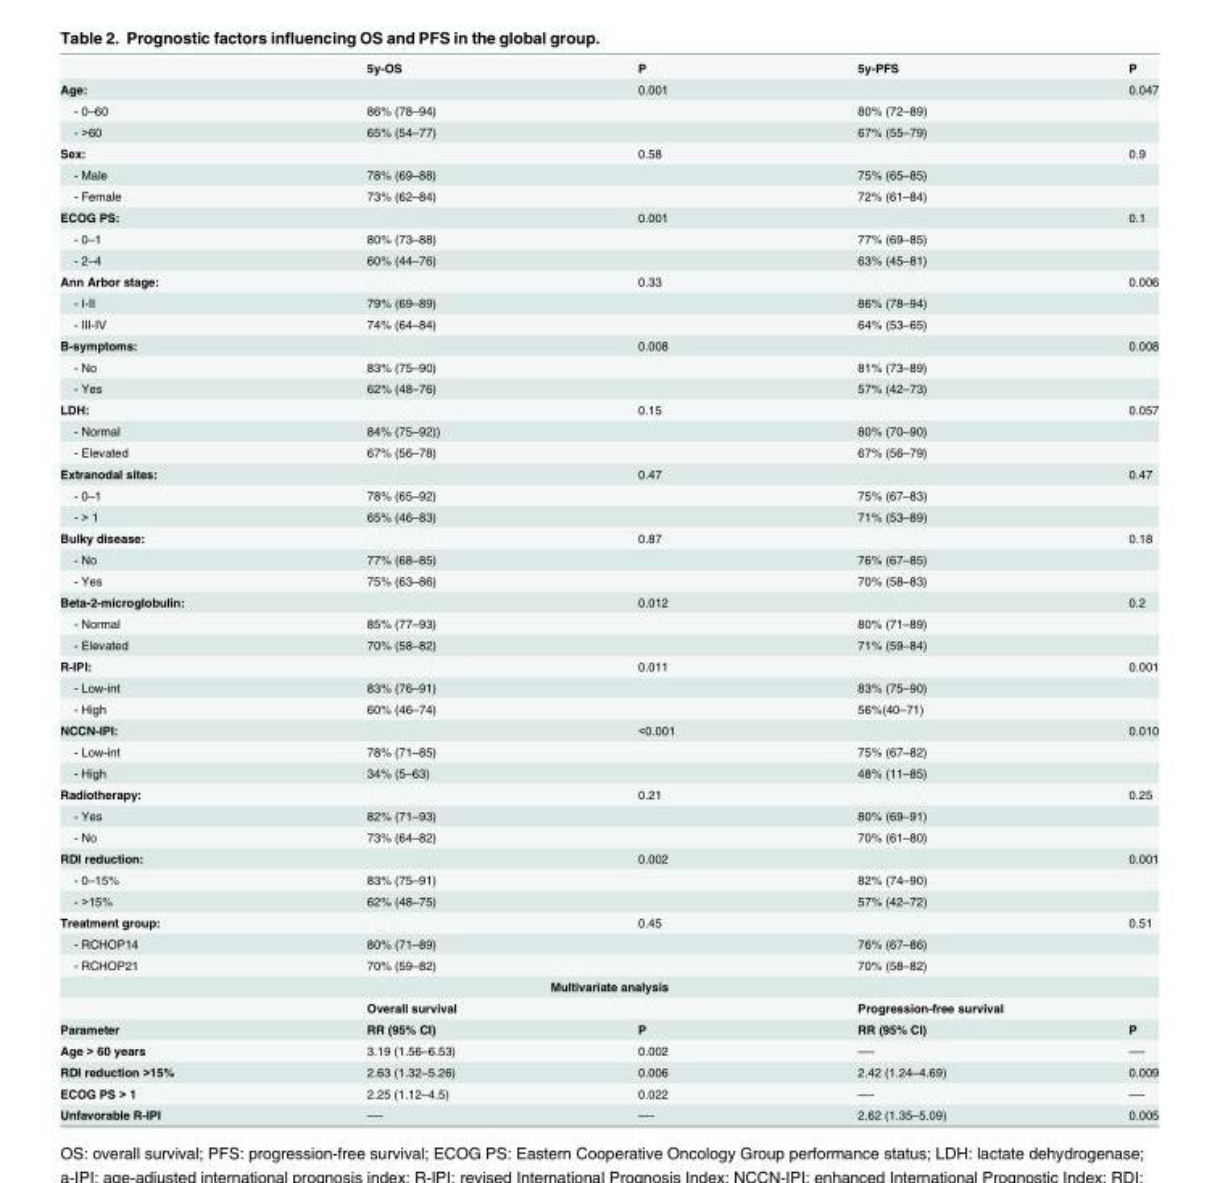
<table><thead><tr><td></td><td>5y-OS</td><td>P</td><td>5y-PFS</td><td>P</td></tr></thead><tbody><tr><td>Age:</td><td></td><td>0.001</td><td></td><td>0.047</td></tr><tr><td>- 0–60</td><td>86% (78–94)</td><td></td><td>80% (72–89)</td><td></td></tr><tr><td>- &gt;60</td><td>65% (54–77)</td><td></td><td>67% (55–79)</td><td></td></tr><tr><td>Sex:</td><td></td><td>0.58</td><td></td><td>0.9</td></tr><tr><td>- Male</td><td>78% (69–88)</td><td></td><td>75% (65–85)</td><td></td></tr><tr><td>- Female</td><td>73% (62–84)</td><td></td><td>72% (61–84)</td><td></td></tr><tr><td>ECOG PS:</td><td></td><td>0.001</td><td></td><td>0.1</td></tr><tr><td>- 0–1</td><td>80% (73–88)</td><td></td><td>77% (69–85)</td><td></td></tr><tr><td>- 2–4</td><td>60% (44–76)</td><td></td><td>63% (45–81)</td><td></td></tr><tr><td>Ann Arbor stage:</td><td></td><td>0.33</td><td></td><td>0.006</td></tr><tr><td>- I-II</td><td>79% (69–89)</td><td></td><td>86% (78–94)</td><td></td></tr><tr><td>- III-IV</td><td>74% (64–84)</td><td></td><td>64% (53–65)</td><td></td></tr><tr><td>B-symptoms:</td><td></td><td>0.008</td><td></td><td>0.008</td></tr><tr><td>- No</td><td>83% (75–90)</td><td></td><td>81% (73–89)</td><td></td></tr><tr><td>- Yes</td><td>62% (48–76)</td><td></td><td>57% (42–73)</td><td></td></tr><tr><td>LDH:</td><td></td><td>0.15</td><td></td><td>0.057</td></tr><tr><td>- Normal</td><td>84% (75–92))</td><td></td><td>80% (70–90)</td><td></td></tr><tr><td>- Elevated</td><td>67% (56–78)</td><td></td><td>67% (56–79)</td><td></td></tr><tr><td>Extranodal sites:</td><td></td><td>0.47</td><td></td><td>0.47</td></tr><tr><td>- 0–1</td><td>78% (65–92)</td><td></td><td>75% (67–83)</td><td></td></tr><tr><td>- &gt; 1</td><td>65% (46–83)</td><td></td><td>71% (53–89)</td><td></td></tr><tr><td>Bulky disease:</td><td></td><td>0.87</td><td></td><td>0.18</td></tr><tr><td>- No</td><td>77% (68–85)</td><td></td><td>76% (67–85)</td><td></td></tr><tr><td>- Yes</td><td>75% (63–86)</td><td></td><td>70% (58–83)</td><td></td></tr><tr><td>Beta-2-microglobulin:</td><td></td><td>0.012</td><td></td><td>0.2</td></tr><tr><td>- Normal</td><td>85% (77–93)</td><td></td><td>80% (71–89)</td><td></td></tr><tr><td>- Elevated</td><td>70% (58–82)</td><td></td><td>71% (59–84)</td><td></td></tr><tr><td>R-IPI:</td><td></td><td>0.011</td><td></td><td>0.001</td></tr><tr><td>- Low-int</td><td>83% (76–91)</td><td></td><td>83% (75–90)</td><td></td></tr><tr><td>- High</td><td>60% (46–74)</td><td></td><td>56%(40–71)</td><td></td></tr><tr><td>NCCN-IPI:</td><td></td><td>&lt;0.001</td><td></td><td>0.010</td></tr><tr><td>- Low-int</td><td>78% (71–85)</td><td></td><td>75% (67–82)</td><td></td></tr><tr><td>- High</td><td>34% (5–63)</td><td></td><td>48% (11–85)</td><td></td></tr><tr><td>Radiotherapy:</td><td></td><td>0.21</td><td></td><td>0.25</td></tr><tr><td>- Yes</td><td>82% (71–93)</td><td></td><td>80% (69–91)</td><td></td></tr><tr><td>- No</td><td>73% (64–82)</td><td></td><td>70% (61–80)</td><td></td></tr><tr><td>RDI reduction:</td><td></td><td>0.002</td><td></td><td>0.001</td></tr><tr><td>- 0–15%</td><td>83% (75–91)</td><td></td><td>82% (74–90)</td><td></td></tr><tr><td>- &gt;15%</td><td>62% (48–75)</td><td></td><td>57% (42–72)</td><td></td></tr><tr><td>Treatment group:</td><td></td><td>0.45</td><td></td><td>0.51</td></tr><tr><td>- RCHOP14</td><td>80% (71–89)</td><td></td><td>76% (67–86)</td><td></td></tr><tr><td>- RCHOP21</td><td>70% (59–82)</td><td></td><td>70% (58–82)</td><td></td></tr><tr><td colspan="5">Multivariate analysis</td></tr><tr><td></td><td colspan="2">Overall survival</td><td colspan="2">Progression-free survival</td></tr><tr><td>Parameter</td><td>RR (95% CI)</td><td>P</td><td>RR (95% CI)</td><td>P</td></tr><tr><td>Age &gt; 60 years</td><td>3.19 (1.56–6.53)</td><td>0.002</td><td>—-</td><td>—-</td></tr><tr><td>RDI reduction &gt;15%</td><td>2.63 (1.32–5.26)</td><td>0.006</td><td>2.42 (1.24–4.69)</td><td>0.009</td></tr><tr><td>ECOG PS &gt; 1</td><td>2.25 (1.12–4.5)</td><td>0.022</td><td>—-</td><td>—-</td></tr><tr><td>Unfavorable R-IPI</td><td>—-</td><td>—-</td><td>2.62 (1.35–5.09)</td><td>0.005</td></tr></tbody></table>